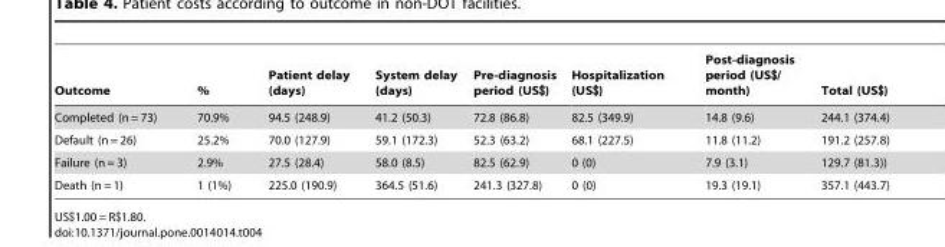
<table><thead><tr><td>Outcome</td><td>%</td><td>Patient delay (days)</td><td>System delay (days)</td><td>Pre-diagnosis period (US$)</td><td>Hospitalization (US$)</td><td>Post-diagnosis period (US$/ month)</td><td>Total (US$)</td></tr></thead><tbody><tr><td>Completed (n = 73)</td><td>70.9%</td><td>94.5 (248.9)</td><td>41.2 (50.3)</td><td>72.8 (86.8)</td><td>82.5 (349.9)</td><td>14.8 (9.6)</td><td>244.1 (374.4)</td></tr><tr><td>Default (n = 26)</td><td>25.2%</td><td>70.0 (127.9)</td><td>59.1 (172.3)</td><td>52.3 (63.2)</td><td>68.1 (227.5)</td><td>11.8 (11.2)</td><td>191.2 (257.8)</td></tr><tr><td>Failure (n = 3)</td><td>2.9%</td><td>27.5 (28.4)</td><td>58.0 (8.5)</td><td>82.5 (62.9)</td><td>0 (0)</td><td>7.9 (3.1)</td><td>129.7 (81.3))</td></tr><tr><td>Death (n = 1)</td><td>1 (1%)</td><td>225.0 (190.9)</td><td>364.5 (51.6)</td><td>241.3 (327.8)</td><td>0 (0)</td><td>19.3 (19.1)</td><td>357.1 (443.7)</td></tr></tbody></table>